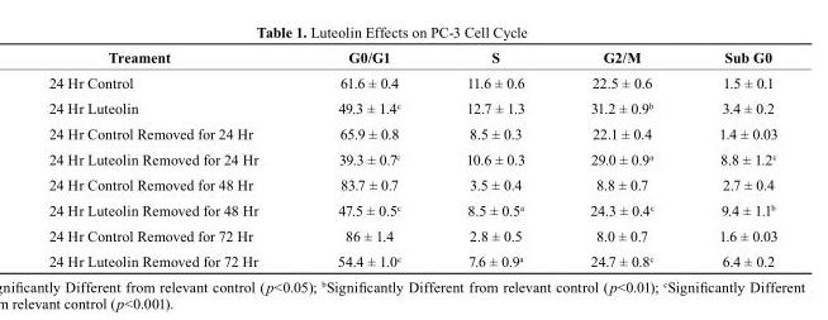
<table><thead><tr><td>Treament</td><td>G0/G1</td><td>S</td><td>G2/M</td><td>Sub G0</td></tr></thead><tbody><tr><td>24 Hr Control</td><td>61.6 ± 0.4</td><td>11.6 ± 0.6</td><td>22.5 ± 0.6</td><td>1.5 ± 0.1</td></tr><tr><td>24 Hr Luteolin</td><td>49.3 ± 1.4<sup>c</sup></td><td>12.7 ± 1.3</td><td>31.2 ± 0.9<sup>b</sup></td><td>3.4 ± 0.2</td></tr><tr><td>24 Hr Control Removed for 24 Hr</td><td>65.9 ± 0.8</td><td>8.5 ± 0.3</td><td>22.1 ± 0.4</td><td>1.4 ± 0.03</td></tr><tr><td>24 Hr Luteolin Removed for 24 Hr</td><td>39.3 ± 0.7<sup>c</sup></td><td>10.6 ± 0.3</td><td>29.0 ± 0.9<sup>a</sup></td><td>8.8 ± 1.2<sup>c</sup></td></tr><tr><td>24 Hr Control Removed for 48 Hr</td><td>83.7 ± 0.7</td><td>3.5 ± 0.4</td><td>8.8 ± 0.7</td><td>2.7 ± 0.4</td></tr><tr><td>24 Hr Luteolin Removed for 48 Hr</td><td>47.5 ± 0.5<sup>c</sup></td><td>8.5 ± 0.5<sup>a</sup></td><td>24.3 ± 0.4<sup>c</sup></td><td>9.4 ± 1.1<sup>b</sup></td></tr><tr><td>24 Hr Control Removed for 72 Hr</td><td>86 ± 1.4</td><td>2.8 ± 0.5</td><td>8.0 ± 0.7</td><td>1.6 ± 0.03</td></tr><tr><td>24 Hr Luteolin Removed for 72 Hr</td><td>54.4 ± 1.0<sup>c</sup></td><td>7.6 ± 0.9<sup>a</sup></td><td>24.7 ± 0.8<sup>c</sup></td><td>6.4 ± 0.2</td></tr></tbody></table>